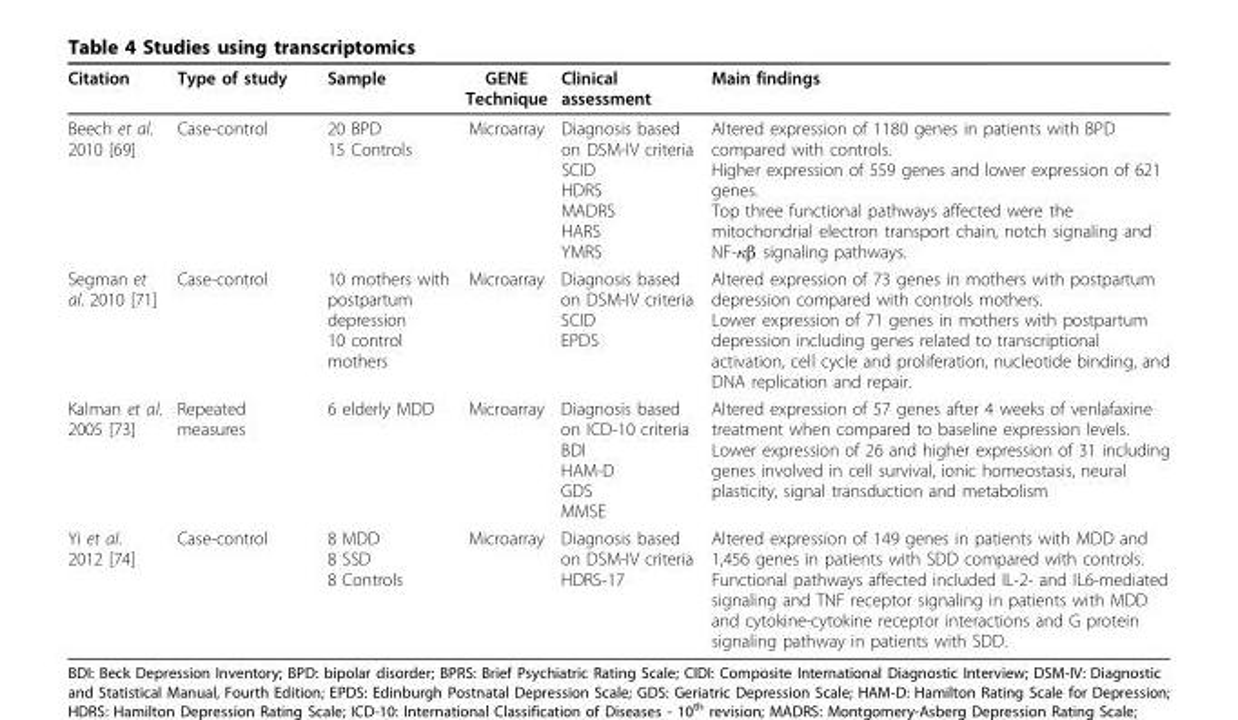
<table><thead><tr><td>Citation</td><td>Type of study</td><td>Sample</td><td>GENE Technique</td><td>Clinical assessment</td><td>Main findings</td></tr></thead><tbody><tr><td>Beech et al. 2010 [69]</td><td>Case-control</td><td>20 BPD 15 Controls</td><td>Microarray</td><td>Diagnosis based on DSM-IV criteria SCID HDRS MADRS HARS YMRS</td><td>Altered expression of 1180 genes in patients with BPD compared with controls. Higher expression of 559 genes and lower expression of 621 genes. Top three functional pathways affected were the mitochondrial electron transport chain, notch signaling and NF-κβ signaling pathways.</td></tr><tr><td>Segman et al. 2010 [71]</td><td>Case-control</td><td>10 mothers with postpartum depression 10 control mothers</td><td>Microarray</td><td>Diagnosis based on DSM-IV criteria SCID EPDS</td><td>Altered expression of 73 genes in mothers with postpartum depression compared with controls mothers. Lower expression of 71 genes in mothers with postpartum depression including genes related to transcriptional activation, cell cycle and proliferation, nucleotide binding, and DNA replication and repair.</td></tr><tr><td>Kalman et al. 2005 [73]</td><td>Repeated measures</td><td>6 elderly MDD</td><td>Microarray</td><td>Diagnosis based on ICD-10 criteria BDI HAM-D GDS MMSE</td><td>Altered expression of 57 genes after 4 weeks of venlafaxine treatment when compared to baseline expression levels. Lower expression of 26 and higher expression of 31 including genes involved in cell survival, ionic homeostasis, neural plasticity, signal transduction and metabolism</td></tr><tr><td>Yi et al. 2012 [74]</td><td>Case-control</td><td>8 MDD 8 SSD 8 Controls</td><td>Microarray</td><td>Diagnosis based on DSM-IV criteria HDRS-17</td><td>Altered expression of 149 genes in patients with MDD and 1,456 genes in patients with SDD compared with controls. Functional pathways affected included IL-2- and IL6-mediated signaling and TNF receptor signaling in patients with MDD and cytokine-cytokine receptor interactions and G protein signaling pathway in patients with SDD.</td></tr></tbody></table>